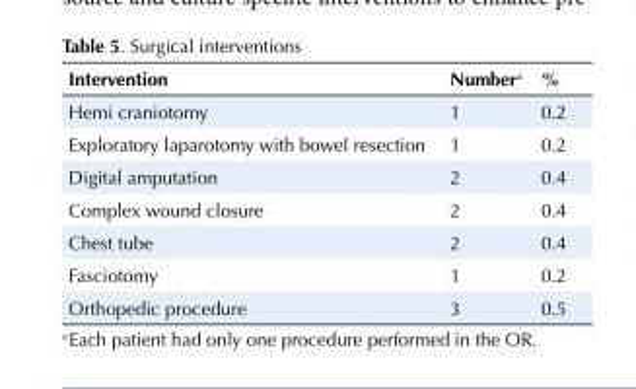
<table><tbody><tr><td>Intervention</td><td>Number<sup>a</sup></td><td>%</td></tr><tr><td>Hemi craniotomy</td><td>1</td><td>0.2</td></tr><tr><td>Exploratory laparotomy with bowel resection</td><td>1</td><td>0.2</td></tr><tr><td>Digital amputation</td><td>2</td><td>0.4</td></tr><tr><td>Complex wound closure</td><td>2</td><td>0.4</td></tr><tr><td>Chest tube</td><td>2</td><td>0.4</td></tr><tr><td>Fasciotomy</td><td>1</td><td>0.2</td></tr><tr><td>Orthopedic procedure</td><td>3</td><td>0.5</td></tr></tbody></table>